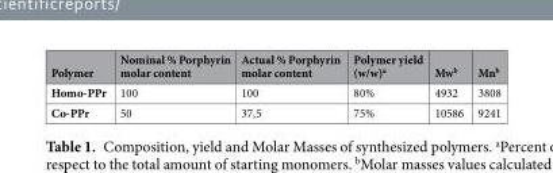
<table><thead><tr><td>Polymer</td><td>Nominal % Porphyrin molar content</td><td>Actual % Porphyrin molar content</td><td>Polymer yield (w/w)<sup>a</sup></td><td>Mw<sup>b</sup></td><td>Mn<sup>b</sup></td></tr></thead><tbody><tr><td>Homo-PPr</td><td>100</td><td>100</td><td>80%</td><td>4932</td><td>3808</td></tr><tr><td>Co-PPr</td><td>50</td><td>37,5</td><td>75%</td><td>10586</td><td>9241</td></tr></tbody></table>